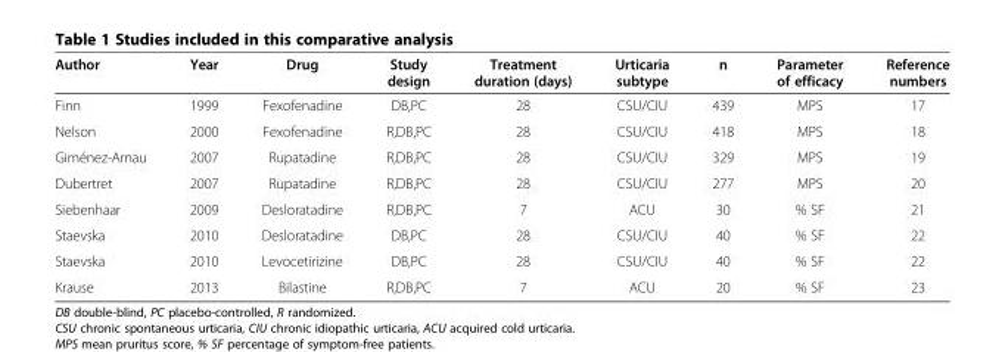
<table><thead><tr><td>Author</td><td>Year</td><td>Drug</td><td>Study design</td><td>Treatment duration (days)</td><td>Urticaria subtype</td><td>n</td><td>Parameter of efficacy</td><td>Reference numbers</td></tr></thead><tbody><tr><td>Finn</td><td>1999</td><td>Fexofenadine</td><td>DB,PC</td><td>28</td><td>CSU/CIU</td><td>439</td><td>MPS</td><td>17</td></tr><tr><td>Nelson</td><td>2000</td><td>Fexofenadine</td><td>R,DB,PC</td><td>28</td><td>CSU/CIU</td><td>418</td><td>MPS</td><td>18</td></tr><tr><td>Giménez-Arnau</td><td>2007</td><td>Rupatadine</td><td>R,DB,PC</td><td>28</td><td>CSU/CIU</td><td>329</td><td>MPS</td><td>19</td></tr><tr><td>Dubertret</td><td>2007</td><td>Rupatadine</td><td>R,DB,PC</td><td>28</td><td>CSU/CIU</td><td>277</td><td>MPS</td><td>20</td></tr><tr><td>Siebenhaar</td><td>2009</td><td>Desloratadine</td><td>R,DB,PC</td><td>7</td><td>ACU</td><td>30</td><td>% SF</td><td>21</td></tr><tr><td>Staevska</td><td>2010</td><td>Desloratadine</td><td>DB,PC</td><td>28</td><td>CSU/CIU</td><td>40</td><td>% SF</td><td>22</td></tr><tr><td>Staevska</td><td>2010</td><td>Levocetirizine</td><td>DB,PC</td><td>28</td><td>CSU/CIU</td><td>40</td><td>% SF</td><td>22</td></tr><tr><td>Krause</td><td>2013</td><td>Bilastine</td><td>R,DB,PC</td><td>7</td><td>ACU</td><td>20</td><td>% SF</td><td>23</td></tr></tbody></table>